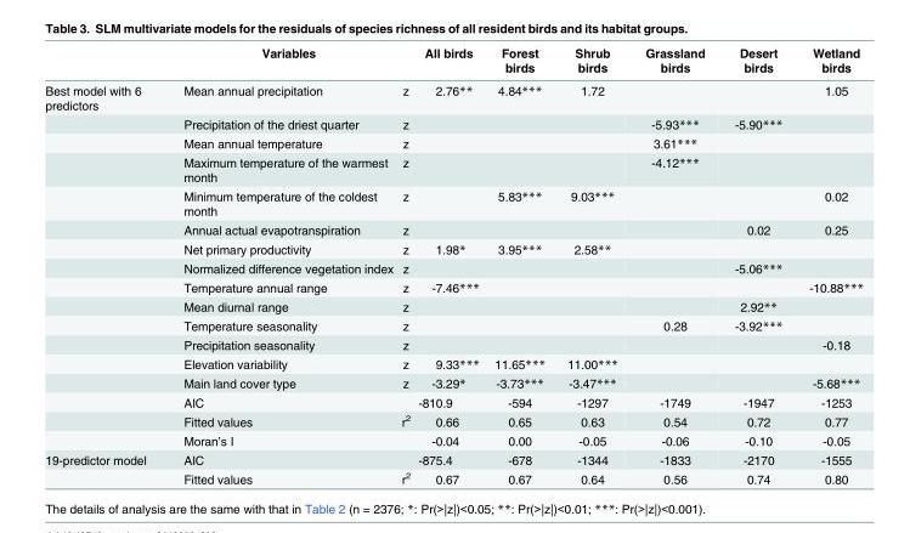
<table><thead><tr><td></td><td>Variables</td><td></td><td>All birds</td><td>Forest birds</td><td>Shrub birds</td><td>Grassland birds</td><td>Desert birds</td><td>Wetland birds</td></tr></thead><tbody><tr><td rowspan="17">Best model with 6 predictors</td><td>Mean annual precipitation</td><td>z</td><td>2.76**</td><td>4.84***</td><td>1.72</td><td></td><td></td><td>1.05</td></tr><tr><td>Precipitation of the driest quarter</td><td>z</td><td></td><td></td><td></td><td>-5.93***</td><td>-5.90***</td><td></td></tr><tr><td>Mean annual temperature</td><td>z</td><td></td><td></td><td></td><td>3.61***</td><td></td><td></td></tr><tr><td>Maximum temperature of the warmest month</td><td>z</td><td></td><td></td><td></td><td>-4.12***</td><td></td><td></td></tr><tr><td>Minimum temperature of the coldest month</td><td>z</td><td></td><td>5.83***</td><td>9.03***</td><td></td><td></td><td>0.02</td></tr><tr><td>Annual actual evapotranspiration</td><td>z</td><td></td><td></td><td></td><td></td><td>0.02</td><td>0.25</td></tr><tr><td>Net primary productivity</td><td>z</td><td>1.98*</td><td>3.95***</td><td>2.58**</td><td></td><td></td><td></td></tr><tr><td>Normalized difference vegetation index</td><td>z</td><td></td><td></td><td></td><td></td><td>-5.06***</td><td></td></tr><tr><td>Temperature annual range</td><td>z</td><td>-7.46***</td><td></td><td></td><td></td><td></td><td>-10.88***</td></tr><tr><td>Mean diurnal range</td><td>z</td><td></td><td></td><td></td><td></td><td>2.92**</td><td></td></tr><tr><td>Temperature seasonality</td><td>z</td><td></td><td></td><td></td><td>0.28</td><td>-3.92***</td><td></td></tr><tr><td>Precipitation seasonality</td><td>z</td><td></td><td></td><td></td><td></td><td></td><td>-0.18</td></tr><tr><td>Elevation variability</td><td>z</td><td>9.33***</td><td>11.65***</td><td>11.00***</td><td></td><td></td><td></td></tr><tr><td>Main land cover type</td><td>z</td><td>-3.29*</td><td>-3.73***</td><td>-3.47***</td><td></td><td></td><td>-5.68***</td></tr><tr><td>AIC</td><td></td><td>-810.9</td><td>-594</td><td>-1297</td><td>-1749</td><td>-1947</td><td>-1253</td></tr><tr><td>Fitted values</td><td>r<sup>2</sup></td><td>0.66</td><td>0.65</td><td>0.63</td><td>0.54</td><td>0.72</td><td>0.77</td></tr><tr><td>Moran’s I</td><td></td><td>-0.04</td><td>0.00</td><td>-0.05</td><td>-0.06</td><td>-0.10</td><td>-0.05</td></tr><tr><td rowspan="2">19-predictor model</td><td>AIC</td><td></td><td>-875.4</td><td>-678</td><td>-1344</td><td>-1833</td><td>-2170</td><td>-1555</td></tr><tr><td>Fitted values</td><td>r<sup>2</sup></td><td>0.67</td><td>0.67</td><td>0.64</td><td>0.56</td><td>0.74</td><td>0.80</td></tr></tbody></table>